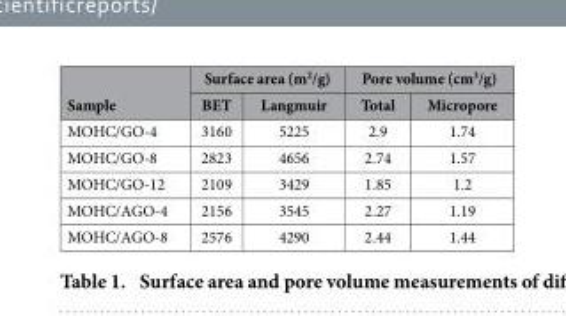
<table><thead><tr><td rowspan="2">Sample</td><td colspan="2">Surface area (m<sup>2</sup>/g)</td><td colspan="2">Pore volume (cm<sup>3</sup>/g)</td></tr><tr><td>BET</td><td>Langmuir</td><td>Total</td><td>Micropore</td></tr></thead><tbody><tr><td>MOHC/GO-4</td><td>3160</td><td>5225</td><td>2.9</td><td>1.74</td></tr><tr><td>MOHC/GO-8</td><td>2823</td><td>4656</td><td>2.74</td><td>1.57</td></tr><tr><td>MOHC/GO-12</td><td>2109</td><td>3429</td><td>1.85</td><td>1.2</td></tr><tr><td>MOHC/AGO-4</td><td>2156</td><td>3545</td><td>2.27</td><td>1.19</td></tr><tr><td>MOHC/AGO-8</td><td>2576</td><td>4290</td><td>2.44</td><td>1.44</td></tr></tbody></table>